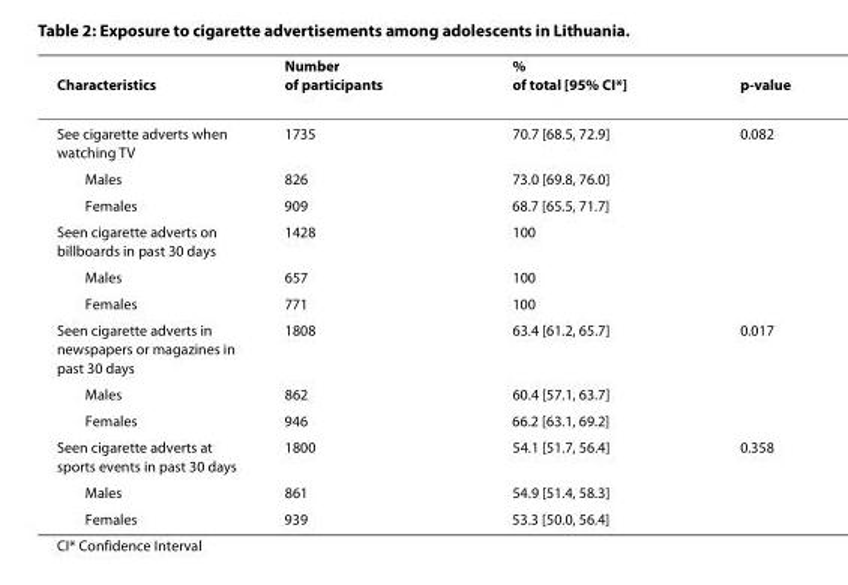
<table><thead><tr><td>Characteristics</td><td>Number of participants</td><td>% of total [95% CI*]</td><td>p-value</td></tr></thead><tbody><tr><td>See cigarette adverts when watching TV</td><td>1735</td><td>70.7 [68.5, 72.9]</td><td>0.082</td></tr><tr><td>Males</td><td>826</td><td>73.0 [69.8, 76.0]</td><td></td></tr><tr><td>Females</td><td>909</td><td>68.7 [65.5, 71.7]</td><td></td></tr><tr><td>Seen cigarette adverts on billboards in past 30 days</td><td>1428</td><td>100</td><td></td></tr><tr><td>Males</td><td>657</td><td>100</td><td></td></tr><tr><td>Females</td><td>771</td><td>100</td><td></td></tr><tr><td>Seen cigarette adverts in newspapers or magazines in past 30 days</td><td>1808</td><td>63.4 [61.2, 65.7]</td><td>0.017</td></tr><tr><td>Males</td><td>862</td><td>60.4 [57.1, 63.7]</td><td></td></tr><tr><td>Females</td><td>946</td><td>66.2 [63.1, 69.2]</td><td></td></tr><tr><td>Seen cigarette adverts at sports events in past 30 days</td><td>1800</td><td>54.1 [51.7, 56.4]</td><td>0.358</td></tr><tr><td>Males</td><td>861</td><td>54.9 [51.4, 58.3]</td><td></td></tr><tr><td>Females</td><td>939</td><td>53.3 [50.0, 56.4]</td><td></td></tr></tbody></table>